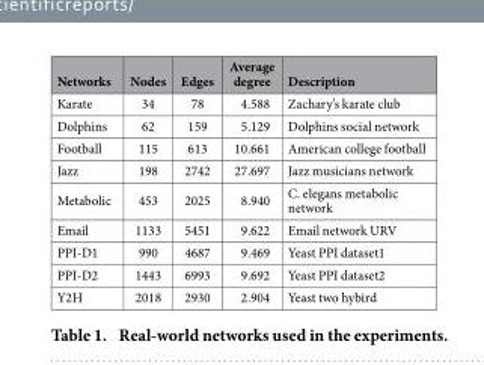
<table><thead><tr><td>Networks</td><td>Nodes</td><td>Edges</td><td>Average degree</td><td>Description</td></tr></thead><tbody><tr><td>Karate</td><td>34</td><td>78</td><td>4.588</td><td>Zachary’s karate club</td></tr><tr><td>Dolphins</td><td>62</td><td>159</td><td>5.129</td><td>Dolphins social network</td></tr><tr><td>Football</td><td>115</td><td>613</td><td>10.661</td><td>American college football</td></tr><tr><td>Jazz</td><td>198</td><td>2742</td><td>27.697</td><td>Jazz musicians network</td></tr><tr><td>Metabolic</td><td>453</td><td>2025</td><td>8.940</td><td>C. elegans metabolic network</td></tr><tr><td>Email</td><td>1133</td><td>5451</td><td>9.622</td><td>Email network URV</td></tr><tr><td>PPI-D1</td><td>990</td><td>4687</td><td>9.469</td><td>Yeast PPI dataset1</td></tr><tr><td>PPI-D2</td><td>1443</td><td>6993</td><td>9.692</td><td>Yeast PPI dataset2</td></tr><tr><td>Y2H</td><td>2018</td><td>2930</td><td>2.904</td><td>Yeast two hybird</td></tr></tbody></table>